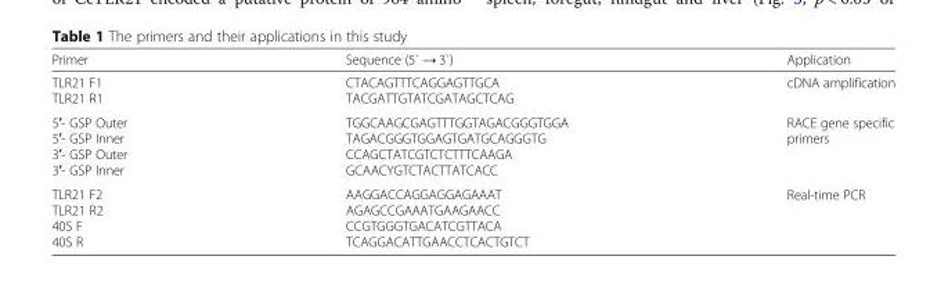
<table><thead><tr><td>Primer</td><td>Sequence (5` → 3`)</td><td>Application</td></tr></thead><tbody><tr><td>TLR21 F1 TLR21 R1</td><td>CTACAGTTTCAGGAGTTGCA TACGATTGTATCGATAGCTCAG</td><td>cDNA amplification</td></tr><tr><td>5′- GSP Outer 5′- GSP Inner 3′- GSP Outer 3′- GSP Inner</td><td>TGGCAAGCGAGTTTGGTAGACGGGTGGA TAGACGGGTGGAGTGATGCAGGGTG CCAGCTATCGTCTCTTTCAAGA GCAACYGTCTACTTATCACC</td><td>RACE gene specific primers</td></tr><tr><td>TLR21 F2 TLR21 R2 40S F 40S R</td><td>AAGGACCAGGAGGAGAAAT AGAGCCGAAATGAAGAACC CCGTGGGTGACATCGTTACA TCAGGACATTGAACCTCACTGTCT</td><td>Real-time PCR</td></tr></tbody></table>